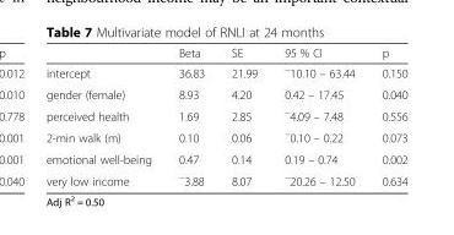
<table><thead><tr><td></td><td>Beta</td><td>SE</td><td>95 % CI</td><td>p</td></tr></thead><tbody><tr><td>intercept</td><td>36.83</td><td>21.99</td><td><sup>−</sup>10.10 – 63.44</td><td>0.150</td></tr><tr><td>gender (female)</td><td>8.93</td><td>4.20</td><td>0.42 – 17.45</td><td>0.040</td></tr><tr><td>perceived health</td><td>1.69</td><td>2.85</td><td><sup>−</sup>4.09 – 7.48</td><td>0.556</td></tr><tr><td>2-min walk (m)</td><td>0.10</td><td>0.06</td><td><sup>−</sup>0.10 – 0.22</td><td>0.073</td></tr><tr><td>emotional well-being</td><td>0.47</td><td>0.14</td><td>0.19 – 0.74</td><td>0.002</td></tr><tr><td>very low income</td><td><sup>−</sup>3.88</td><td>8.07</td><td><sup>−</sup>20.26 – 12.50</td><td>0.634</td></tr></tbody></table>